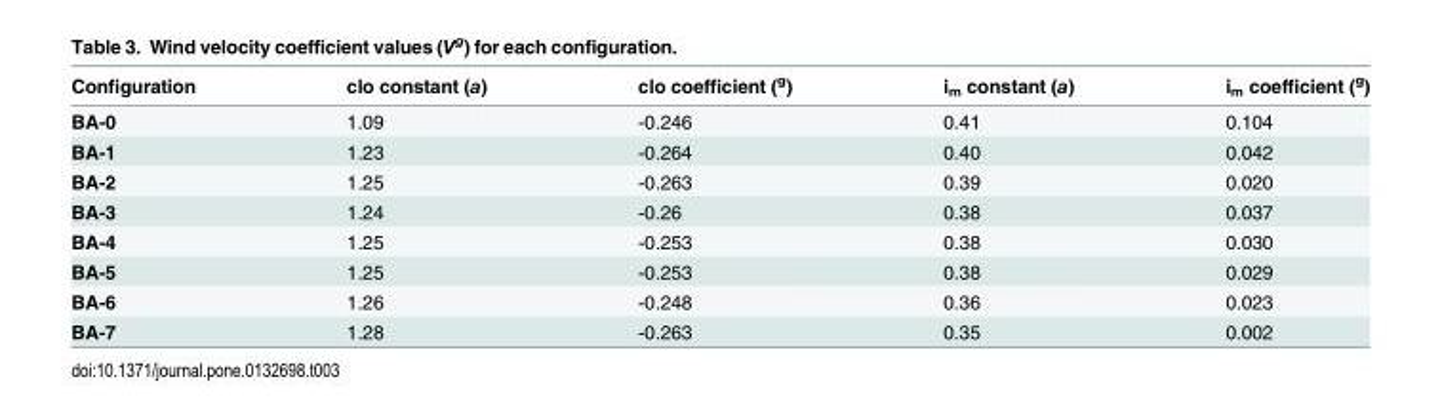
<table><thead><tr><td>Configuration</td><td>clo constant (a)</td><td>clo coefficient (<sup>g</sup>)</td><td>i<sub>m</sub> constant (a)</td><td>i<sub>m</sub> coefficient (<sup>g</sup>)</td></tr></thead><tbody><tr><td>BA-0</td><td>1.09</td><td>-0.246</td><td>0.41</td><td>0.104</td></tr><tr><td>BA-1</td><td>1.23</td><td>-0.264</td><td>0.40</td><td>0.042</td></tr><tr><td>BA-2</td><td>1.25</td><td>-0.263</td><td>0.39</td><td>0.020</td></tr><tr><td>BA-3</td><td>1.24</td><td>-0.26</td><td>0.38</td><td>0.037</td></tr><tr><td>BA-4</td><td>1.25</td><td>-0.253</td><td>0.38</td><td>0.030</td></tr><tr><td>BA-5</td><td>1.25</td><td>-0.253</td><td>0.38</td><td>0.029</td></tr><tr><td>BA-6</td><td>1.26</td><td>-0.248</td><td>0.36</td><td>0.023</td></tr><tr><td>BA-7</td><td>1.28</td><td>-0.263</td><td>0.35</td><td>0.002</td></tr></tbody></table>